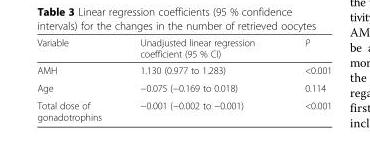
<table><thead><tr><td>Variable</td><td>Unadjusted linear regression coefficient (95 % CI)</td><td>P</td></tr></thead><tbody><tr><td>AMH</td><td>1.130 (0.977 to 1.283)</td><td>&lt;0.001</td></tr><tr><td>Age</td><td>−0.075 (−0.169 to 0.018)</td><td>0.114</td></tr><tr><td>Total dose of gonadotrophins</td><td>−0.001 (−0.002 to −0.001)</td><td>&lt;0.001</td></tr></tbody></table>